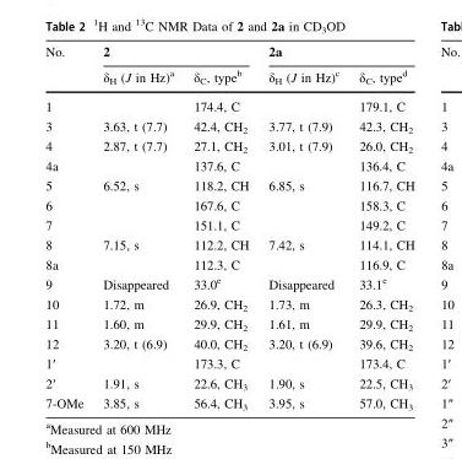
<table><thead><tr><td rowspan="2">No.</td><td colspan="2">2</td><td colspan="2">2a</td></tr><tr><td>δ<sub>H</sub> (J in Hz)<sup>a</sup></td><td>δ<sub>C</sub>, type<sup>b</sup></td><td>δ<sub>H</sub> (J in Hz)<sup>c</sup></td><td>δ<sub>C</sub>, type<sup>d</sup></td></tr></thead><tbody><tr><td>1</td><td></td><td>174.4, C</td><td></td><td>179.1, C</td></tr><tr><td>3</td><td>3.63, t (7.7)</td><td>42.4, CH<sub>2</sub></td><td>3.77, t (7.9)</td><td>42.3, CH<sub>2</sub></td></tr><tr><td>4</td><td>2.87, t (7.7)</td><td>27.1, CH<sub>2</sub></td><td>3.01, t (7.9)</td><td>26.0, CH<sub>2</sub></td></tr><tr><td>4a</td><td></td><td>137.6, C</td><td></td><td>136.4, C</td></tr><tr><td>5</td><td>6.52, s</td><td>118.2, CH</td><td>6.85, s</td><td>116.7, CH</td></tr><tr><td>6</td><td></td><td>167.6, C</td><td></td><td>158.3, C</td></tr><tr><td>7</td><td></td><td>151.1, C</td><td></td><td>149.2, C</td></tr><tr><td>8</td><td>7.15, s</td><td>112.2, CH</td><td>7.42, s</td><td>114.1, CH</td></tr><tr><td>8a</td><td></td><td>112.3, C</td><td></td><td>116.9, C</td></tr><tr><td>9</td><td>Disappeared</td><td>33.0<sup>e</sup></td><td>Disappeared</td><td>33.1<sup>e</sup></td></tr><tr><td>10</td><td>1.72, m</td><td>26.9, CH<sub>2</sub></td><td>1.73, m</td><td>26.3, CH<sub>2</sub></td></tr><tr><td>11</td><td>1.60, m</td><td>29.9, CH<sub>2</sub></td><td>1.61, m</td><td>29.9, CH<sub>2</sub></td></tr><tr><td>12</td><td>3.20, t (6.9)</td><td>40.0, CH<sub>2</sub></td><td>3.20, t (6.9)</td><td>39.6, CH<sub>2</sub></td></tr><tr><td>1′</td><td></td><td>173.3, C</td><td></td><td>173.4, C</td></tr><tr><td>2′</td><td>1.91, s</td><td>22.6, CH<sub>3</sub></td><td>1.90, s</td><td>22.5, CH<sub>3</sub></td></tr><tr><td>7-OMe</td><td>3.85, s</td><td>56.4, CH<sub>3</sub></td><td>3.95, s</td><td>57.0, CH<sub>3</sub></td></tr></tbody></table>